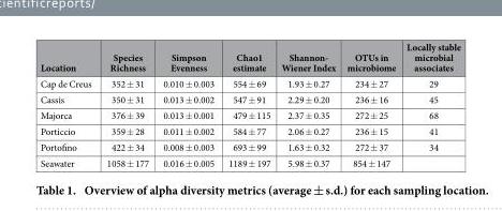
<table><thead><tr><td>Location</td><td>Species Richness</td><td>Simpson Evenness</td><td>Chao1 estimate</td><td>Shannon- Wiener Index</td><td>OTUs in microbiome</td><td>Locally stable microbial associates</td></tr></thead><tbody><tr><td>Cap de Creus</td><td>352 ± 31</td><td>0.010 ± 0.003</td><td>554 ± 69</td><td>1.93 ± 0.27</td><td>234 ± 27</td><td>29</td></tr><tr><td>Cassis</td><td>350 ± 31</td><td>0.013 ± 0.002</td><td>547 ± 91</td><td>2.29 ± 0.20</td><td>236 ± 16</td><td>45</td></tr><tr><td>Majorca</td><td>376 ± 39</td><td>0.013 ± 0.001</td><td>479 ± 115</td><td>2.37 ± 0.35</td><td>272 ± 25</td><td>68</td></tr><tr><td>Porticcio</td><td>359 ± 28</td><td>0.011 ± 0.002</td><td>584 ± 77</td><td>2.06 ± 0.27</td><td>236 ± 15</td><td>41</td></tr><tr><td>Portofino</td><td>422 ± 34</td><td>0.008 ± 0.003</td><td>693 ± 99</td><td>1.63 ± 0.32</td><td>272 ± 37</td><td>34</td></tr><tr><td>Seawater</td><td>1058 ± 177</td><td>0.016 ± 0.005</td><td>1189 ± 197</td><td>5.98 ± 0.37</td><td>854 ± 147</td><td></td></tr></tbody></table>